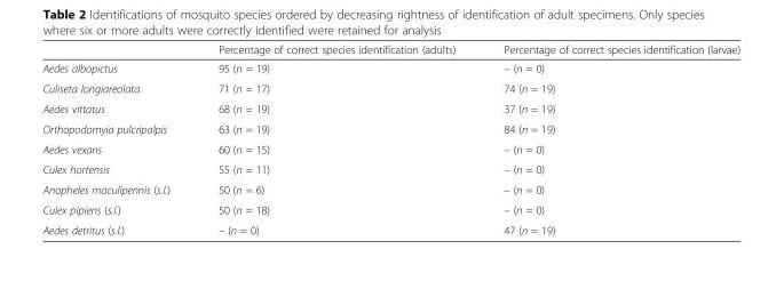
<table><thead><tr><td></td><td>Percentage of correct species identification (adults)</td><td>Percentage of correct species identification (larvae)</td></tr></thead><tbody><tr><td>Aedes albopictus</td><td>95 (n = 19)</td><td>– (n = 0)</td></tr><tr><td>Culiseta longiareolata</td><td>71 (n = 17)</td><td>74 (n = 19)</td></tr><tr><td>Aedes vittatus</td><td>68 (n = 19)</td><td>37 (n = 19)</td></tr><tr><td>Orthopodomyia pulcripalpis</td><td>63 (n = 19)</td><td>84 (n = 19)</td></tr><tr><td>Aedes vexans</td><td>60 (n = 15)</td><td>– (n = 0)</td></tr><tr><td>Culex hortensis</td><td>55 (n = 11)</td><td>– (n = 0)</td></tr><tr><td>Anopheles maculipennis (s.l.)</td><td>50 (n = 6)</td><td>– (n = 0)</td></tr><tr><td>Culex pipiens (s.l.)</td><td>50 (n = 18)</td><td>– (n = 0)</td></tr><tr><td>Aedes detritus (s.l.)</td><td>– (n = 0)</td><td>47 (n = 19)</td></tr></tbody></table>